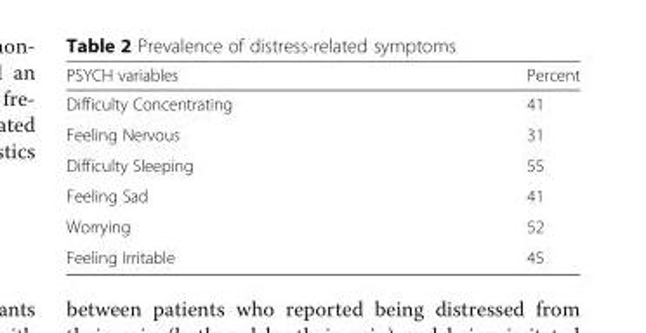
<table><thead><tr><td>PSYCH variables</td><td>Percent</td></tr></thead><tbody><tr><td>Difficulty Concentrating</td><td>41</td></tr><tr><td>Feeling Nervous</td><td>31</td></tr><tr><td>Difficulty Sleeping</td><td>55</td></tr><tr><td>Feeling Sad</td><td>41</td></tr><tr><td>Worrying</td><td>52</td></tr><tr><td>Feeling Irritable</td><td>45</td></tr></tbody></table>